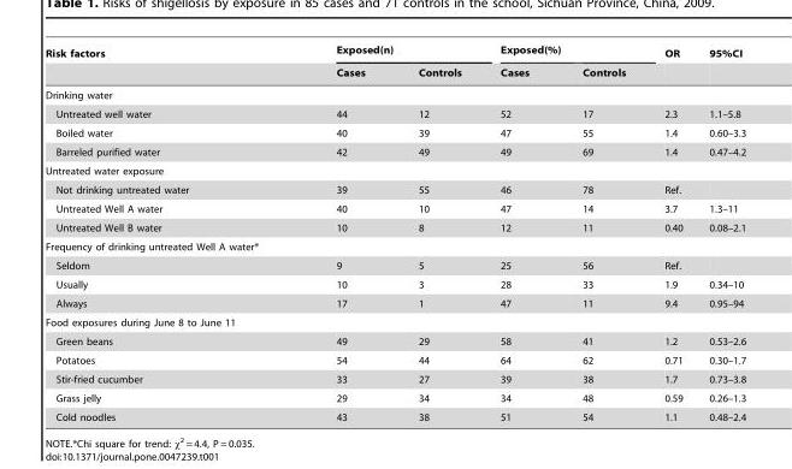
<table><thead><tr><td rowspan="2">Risk factors</td><td rowspan="2">Exposed(n) Cases</td><td rowspan="2">Controls</td><td rowspan="2">Exposed(%) Cases</td><td rowspan="2">Controls</td><td rowspan="2">OR</td><td rowspan="2">95%CI</td></tr><tr></tr></thead><tbody><tr><td colspan="7">Drinking water</td></tr><tr><td>Untreated well water</td><td>44</td><td>12</td><td>52</td><td>17</td><td>2.3</td><td>1.1–5.8</td></tr><tr><td>Boiled water</td><td>40</td><td>39</td><td>47</td><td>55</td><td>1.4</td><td>0.60–3.3</td></tr><tr><td>Barreled purified water</td><td>42</td><td>49</td><td>49</td><td>69</td><td>1.4</td><td>0.47–4.2</td></tr><tr><td colspan="7">Untreated water exposure</td></tr><tr><td>Not drinking untreated water</td><td>39</td><td>55</td><td>46</td><td>78</td><td>Ref.</td><td></td></tr><tr><td>Untreated Well A water</td><td>40</td><td>10</td><td>47</td><td>14</td><td>3.7</td><td>1.3–11</td></tr><tr><td>Untreated Well B water</td><td>10</td><td>8</td><td>12</td><td>11</td><td>0.40</td><td>0.08–2.1</td></tr><tr><td colspan="7">Frequency of drinking untreated Well A water*</td></tr><tr><td>Seldom</td><td>9</td><td>5</td><td>25</td><td>56</td><td>Ref.</td><td></td></tr><tr><td>Usually</td><td>10</td><td>3</td><td>28</td><td>33</td><td>1.9</td><td>0.34–10</td></tr><tr><td>Always</td><td>17</td><td>1</td><td>47</td><td>11</td><td>9.4</td><td>0.95–94</td></tr><tr><td colspan="7">Food exposures during June 8 to June 11</td></tr><tr><td>Green beans</td><td>49</td><td>29</td><td>58</td><td>41</td><td>1.2</td><td>0.53–2.6</td></tr><tr><td>Potatoes</td><td>54</td><td>44</td><td>64</td><td>62</td><td>0.71</td><td>0.30–1.7</td></tr><tr><td>Stir-fried cucumber</td><td>33</td><td>27</td><td>39</td><td>38</td><td>1.7</td><td>0.73–3.8</td></tr><tr><td>Grass jelly</td><td>29</td><td>34</td><td>34</td><td>48</td><td>0.59</td><td>0.26–1.3</td></tr><tr><td>Cold noodles</td><td>43</td><td>38</td><td>51</td><td>54</td><td>1.1</td><td>0.48–2.4</td></tr></tbody></table>